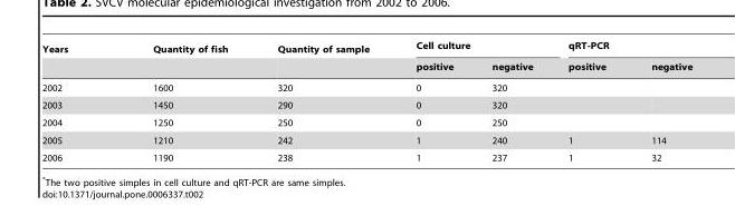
<table><thead><tr><td rowspan="2">Years</td><td rowspan="2">Quantity of fish</td><td rowspan="2">Quantity of sample</td><td colspan="2">Cell culture</td><td colspan="2">qRT-PCR</td></tr><tr><td>positive</td><td>negative</td><td>positive</td><td>negative</td></tr></thead><tbody><tr><td>2002</td><td>1600</td><td>320</td><td>0</td><td>320</td><td></td><td></td></tr><tr><td>2003</td><td>1450</td><td>290</td><td>0</td><td>320</td><td></td><td></td></tr><tr><td>2004</td><td>1250</td><td>250</td><td>0</td><td>250</td><td></td><td></td></tr><tr><td>2005</td><td>1210</td><td>242</td><td>1</td><td>240</td><td>1</td><td>114</td></tr><tr><td>2006</td><td>1190</td><td>238</td><td>1</td><td>237</td><td>1</td><td>32</td></tr></tbody></table>